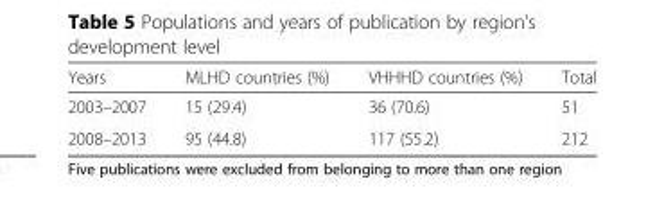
<table><thead><tr><td>Years</td><td>MLHD countries (%)</td><td>VHHHD countries (%)</td><td>Total</td></tr></thead><tbody><tr><td>2003–2007</td><td>15 (29.4)</td><td>36 (70.6)</td><td>51</td></tr><tr><td>2008–2013</td><td>95 (44.8)</td><td>117 (55.2)</td><td>212</td></tr></tbody></table>